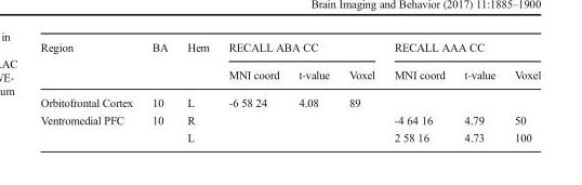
<table><thead><tr><td rowspan="2">Region</td><td rowspan="2">BA</td><td rowspan="2">Hem</td><td colspan="3">RECALL ABA CC</td><td colspan="3">RECALL AAA CC</td></tr><tr><td>MNI coord</td><td>t-value</td><td>Voxel</td><td>MNI coord</td><td>t-value</td><td>Voxel</td></tr></thead><tbody><tr><td>Orbitofrontal Cortex</td><td>10</td><td>L</td><td>-6 58 24</td><td>4.08</td><td>89</td><td></td><td></td><td></td></tr><tr><td rowspan="2">Ventromedial PFC</td><td>10</td><td>R</td><td></td><td></td><td></td><td>-4 64 16</td><td>4.79</td><td>50</td></tr><tr><td></td><td>L</td><td></td><td></td><td></td><td>2 58 16</td><td>4.73</td><td>100</td></tr></tbody></table>